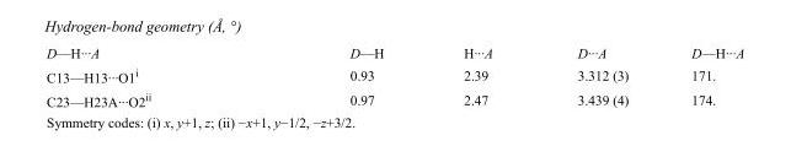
<table><tbody><tr><td>D—H···A</td><td>D—H</td><td>H···A</td><td>D···A</td><td>D—H···A</td></tr><tr><td>C13—H13···O1<sup>i</sup></td><td>0.93</td><td>2.39</td><td>3.312 (3)</td><td>171.</td></tr><tr><td>C23—H23A···O2<sup>ii</sup></td><td>0.97</td><td>2.47</td><td>3.439 (4)</td><td>174.</td></tr></tbody></table>